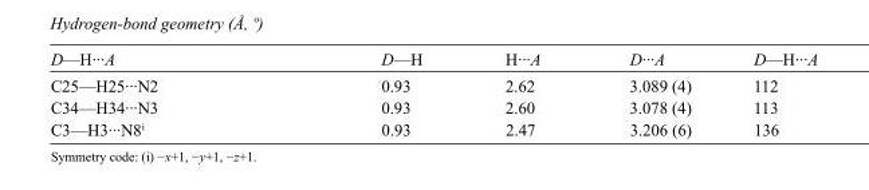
<table><tbody><tr><td>D—H···A</td><td>D—H</td><td>H···A</td><td>D···A</td><td>D—H···A</td></tr><tr><td>C25—H25···N2</td><td>0.93</td><td>2.62</td><td>3.089 (4)</td><td>112</td></tr><tr><td>C34—H34···N3</td><td>0.93</td><td>2.60</td><td>3.078 (4)</td><td>113</td></tr><tr><td>C3—H3···N8<sup>i</sup></td><td>0.93</td><td>2.47</td><td>3.206 (6)</td><td>136</td></tr></tbody></table>